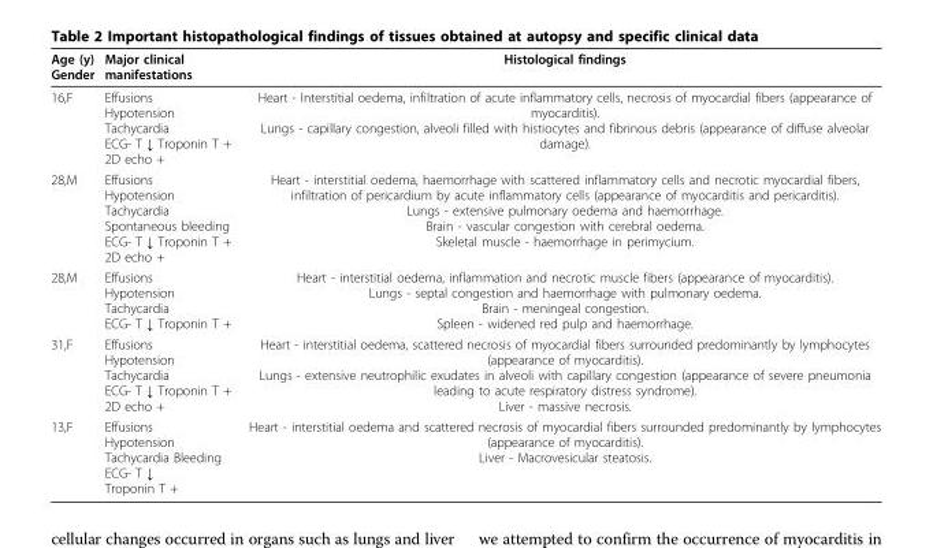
<table><thead><tr><td>Age (y) Gender</td><td>Major clinical manifestations</td><td>Histological findings</td></tr></thead><tbody><tr><td>16,F</td><td>Effusions Hypotension Tachycardia ECG- T ↓ Troponin T + 2D echo +</td><td>Heart - Interstitial oedema, infiltration of acute inflammatory cells, necrosis of myocardial fibers (appearance of myocarditis). Lungs - capillary congestion, alveoli filled with histiocytes and fibrinous debris (appearance of diffuse alveolar damage).</td></tr><tr><td>28,M</td><td>Effusions Hypotension Tachycardia Spontaneous bleeding ECG- T ↓ Troponin T + 2D echo +</td><td>Heart - interstitial oedema, haemorrhage with scattered inflammatory cells and necrotic myocardial fibers, infiltration of pericardium by acute inflammatory cells (appearance of myocarditis and pericarditis). Lungs - extensive pulmonary oedema and haemorrhage. Brain - vascular congestion with cerebral oedema. Skeletal muscle - haemorrhage in perimycium.</td></tr><tr><td>28,M</td><td>Effusions Hypotension Tachycardia ECG- T ↓ Troponin T +</td><td>Heart - interstitial oedema, inflammation and necrotic muscle fibers (appearance of myocarditis). Lungs - septal congestion and haemorrhage with pulmonary oedema. Brain - meningeal congestion. Spleen - widened red pulp and haemorrhage.</td></tr><tr><td>31,F</td><td>Effusions Hypotension Tachycardia ECG- T ↓ Troponin T + 2D echo +</td><td>Heart - interstitial oedema, scattered necrosis of myocardial fibers surrounded predominantly by lymphocytes (appearance of myocarditis). Lungs - extensive neutrophilic exudates in alveoli with capillary congestion (appearance of severe pneumonia leading to acute respiratory distress syndrome). Liver - massive necrosis.</td></tr><tr><td>13,F</td><td>Effusions Hypotension Tachycardia Bleeding ECG- T ↓ Troponin T +</td><td>Heart - interstitial oedema and scattered necrosis of myocardial fibers surrounded predominantly by lymphocytes (appearance of myocarditis). Liver - Macrovesicular steatosis.</td></tr></tbody></table>